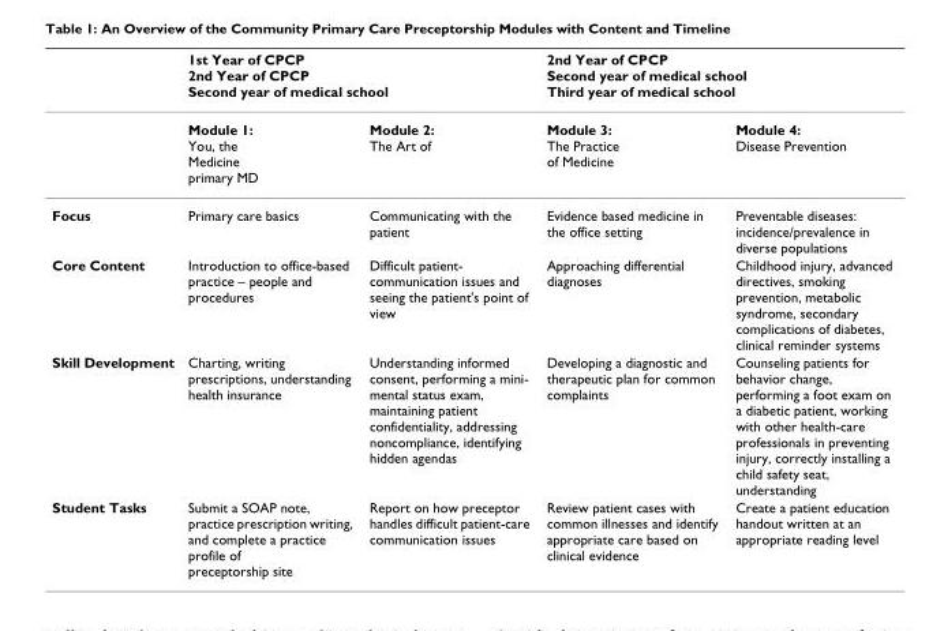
<table><thead><tr><td rowspan="2"></td><td colspan="2">1st Year of CPCP 2nd Year of CPCP Second year of medical school</td><td colspan="2">2nd Year of CPCP Second year of medical school Third year of medical school</td></tr><tr><td>Module 1: You, the Medicine primary MD</td><td>Module 2: The Art of</td><td>Module 3: The Practice of Medicine</td><td>Module 4: Disease Prevention</td></tr></thead><tbody><tr><td>Focus</td><td>Primary care basics</td><td>Communicating with the patient</td><td>Evidence based medicine in the office setting</td><td>Preventable diseases: incidence/prevalence in diverse populations</td></tr><tr><td>Core Content</td><td>Introduction to office-based practice – people and procedures</td><td>Difficult patient- communication issues and seeing the patient&#x27;s point of view</td><td>Approaching differential diagnoses</td><td>Childhood injury, advanced directives, smoking prevention, metabolic syndrome, secondary complications of diabetes, clinical reminder systems</td></tr><tr><td>Skill Development</td><td>Charting, writing prescriptions, understanding health insurance</td><td>Understanding informed consent, performing a mini- mental status exam, maintaining patient confidentiality, addressing noncompliance, identifying hidden agendas</td><td>Developing a diagnostic and therapeutic plan for common complaints</td><td>Counseling patients for behavior change, performing a foot exam on a diabetic patient, working with other health-care professionals in preventing injury, correctly installing a child safety seat, understanding</td></tr><tr><td>Student Tasks</td><td>Submit a SOAP note, practice prescription writing, and complete a practice profile of preceptorship site</td><td>Report on how preceptor handles difficult patient-care communication issues</td><td>Review patient cases with common illnesses and identify appropriate care based on clinical evidence</td><td>Create a patient education handout written at an appropriate reading level</td></tr></tbody></table>